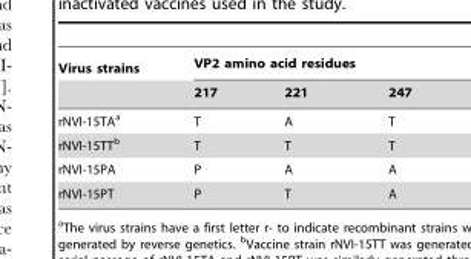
<table><thead><tr><td rowspan="2">Virus strains</td><td colspan="3">VP2 amino acid residues</td></tr><tr><td>217</td><td>221</td><td>247</td></tr></thead><tbody><tr><td>rNVI-15TA<sup>a</sup></td><td>T</td><td>A</td><td>T</td></tr><tr><td>rNVI-15TT<sup>b</sup></td><td>T</td><td>T</td><td>T</td></tr><tr><td>rNVI-15PA</td><td>P</td><td>A</td><td>A</td></tr><tr><td>rNVI-15PT</td><td>P</td><td>T</td><td>A</td></tr></tbody></table>